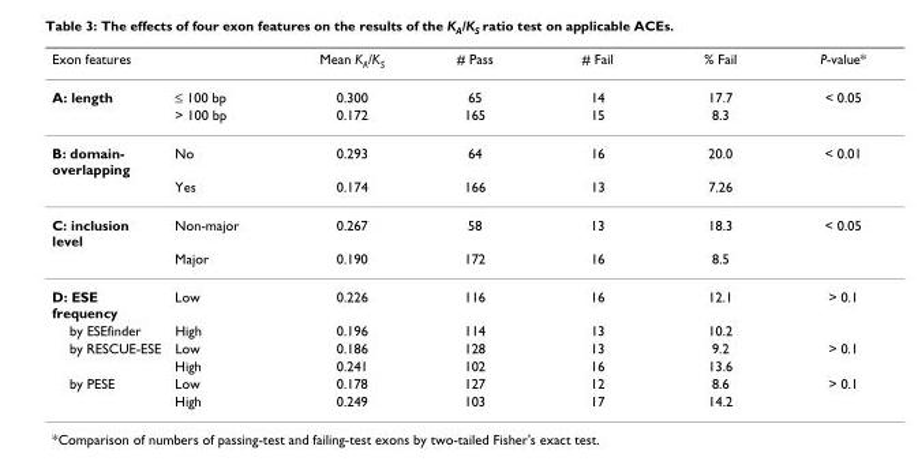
<table><thead><tr><td>Exon features</td><td></td><td>Mean KA/KS</td><td># Pass</td><td># Fail</td><td>% Fail</td><td>P-value*</td></tr></thead><tbody><tr><td rowspan="2">A: length</td><td>≤ 100 bp</td><td>0.300</td><td>65</td><td>14</td><td>17.7</td><td>&lt; 0.05</td></tr><tr><td>&gt; 100 bp</td><td>0.172</td><td>165</td><td>15</td><td>8.3</td><td></td></tr><tr><td rowspan="2">B: domain- overlapping</td><td>No</td><td>0.293</td><td>64</td><td>16</td><td>20.0</td><td>&lt; 0.01</td></tr><tr><td>Yes</td><td>0.174</td><td>166</td><td>13</td><td>7.26</td><td></td></tr><tr><td rowspan="2">C: inclusion level</td><td>Non-major</td><td>0.267</td><td>58</td><td>13</td><td>18.3</td><td>&lt; 0.05</td></tr><tr><td>Major</td><td>0.190</td><td>172</td><td>16</td><td>8.5</td><td></td></tr><tr><td>D: ESE frequency</td><td>Low</td><td>0.226</td><td>116</td><td>16</td><td>12.1</td><td>&gt; 0.1</td></tr><tr><td>by ESEfinder</td><td>High</td><td>0.196</td><td>114</td><td>13</td><td>10.2</td><td></td></tr><tr><td rowspan="2">by RESCUE-ESE</td><td>Low</td><td>0.186</td><td>128</td><td>13</td><td>9.2</td><td>&gt; 0.1</td></tr><tr><td>High</td><td>0.241</td><td>102</td><td>16</td><td>13.6</td><td></td></tr><tr><td rowspan="2">by PESE</td><td>Low</td><td>0.178</td><td>127</td><td>12</td><td>8.6</td><td>&gt; 0.1</td></tr><tr><td>High</td><td>0.249</td><td>103</td><td>17</td><td>14.2</td><td></td></tr></tbody></table>